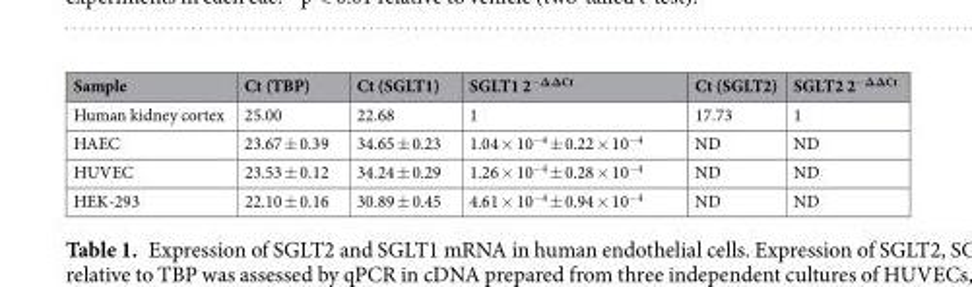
<table><thead><tr><td>Sample</td><td>Ct (TBP)</td><td>Ct (SGLT1)</td><td>SGLT1 2<sup>−ΔΔCt</sup></td><td>Ct (SGLT2)</td><td>SGLT2 2<sup>−ΔΔCt</sup></td></tr></thead><tbody><tr><td>Human kidney cortex</td><td>25.00</td><td>22.68</td><td>1</td><td>17.73</td><td>1</td></tr><tr><td>HAEC</td><td>23.67 ± 0.39</td><td>34.65 ± 0.23</td><td>1.04 × 10<sup>−4</sup> ± 0.22 × 10<sup>−4</sup></td><td>ND</td><td>ND</td></tr><tr><td>HUVEC</td><td>23.53 ± 0.12</td><td>34.24 ± 0.29</td><td>1.26 × 10<sup>−4</sup> ± 0.28 × 10<sup>−4</sup></td><td>ND</td><td>ND</td></tr><tr><td>HEK-293</td><td>22.10 ± 0.16</td><td>30.89 ± 0.45</td><td>4.61 × 10<sup>−4</sup> ± 0.94 × 10<sup>−4</sup></td><td>ND</td><td>ND</td></tr></tbody></table>